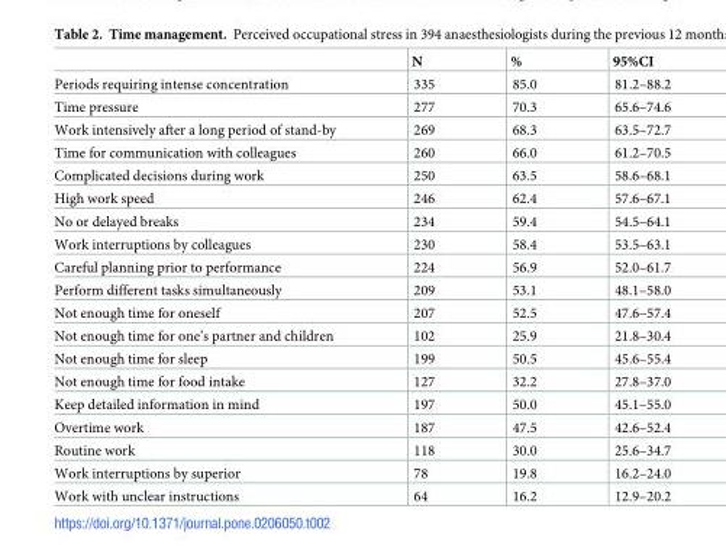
<table><thead><tr><td></td><td>N</td><td>%</td><td>95%CI</td></tr></thead><tbody><tr><td>Periods requiring intense concentration</td><td>335</td><td>85.0</td><td>81.2–88.2</td></tr><tr><td>Time pressure</td><td>277</td><td>70.3</td><td>65.6–74.6</td></tr><tr><td>Work intensively after a long period of stand-by</td><td>269</td><td>68.3</td><td>63.5–72.7</td></tr><tr><td>Time for communication with colleagues</td><td>260</td><td>66.0</td><td>61.2–70.5</td></tr><tr><td>Complicated decisions during work</td><td>250</td><td>63.5</td><td>58.6–68.1</td></tr><tr><td>High work speed</td><td>246</td><td>62.4</td><td>57.6–67.1</td></tr><tr><td>No or delayed breaks</td><td>234</td><td>59.4</td><td>54.5–64.1</td></tr><tr><td>Work interruptions by colleagues</td><td>230</td><td>58.4</td><td>53.5–63.1</td></tr><tr><td>Careful planning prior to performance</td><td>224</td><td>56.9</td><td>52.0–61.7</td></tr><tr><td>Perform different tasks simultaneously</td><td>209</td><td>53.1</td><td>48.1–58.0</td></tr><tr><td>Not enough time for oneself</td><td>207</td><td>52.5</td><td>47.6–57.4</td></tr><tr><td>Not enough time for one’s partner and children</td><td>102</td><td>25.9</td><td>21.8–30.4</td></tr><tr><td>Not enough time for sleep</td><td>199</td><td>50.5</td><td>45.6–55.4</td></tr><tr><td>Not enough time for food intake</td><td>127</td><td>32.2</td><td>27.8–37.0</td></tr><tr><td>Keep detailed information in mind</td><td>197</td><td>50.0</td><td>45.1–55.0</td></tr><tr><td>Overtime work</td><td>187</td><td>47.5</td><td>42.6–52.4</td></tr><tr><td>Routine work</td><td>118</td><td>30.0</td><td>25.6–34.7</td></tr><tr><td>Work interruptions by superior</td><td>78</td><td>19.8</td><td>16.2–24.0</td></tr><tr><td>Work with unclear instructions</td><td>64</td><td>16.2</td><td>12.9–20.2</td></tr></tbody></table>